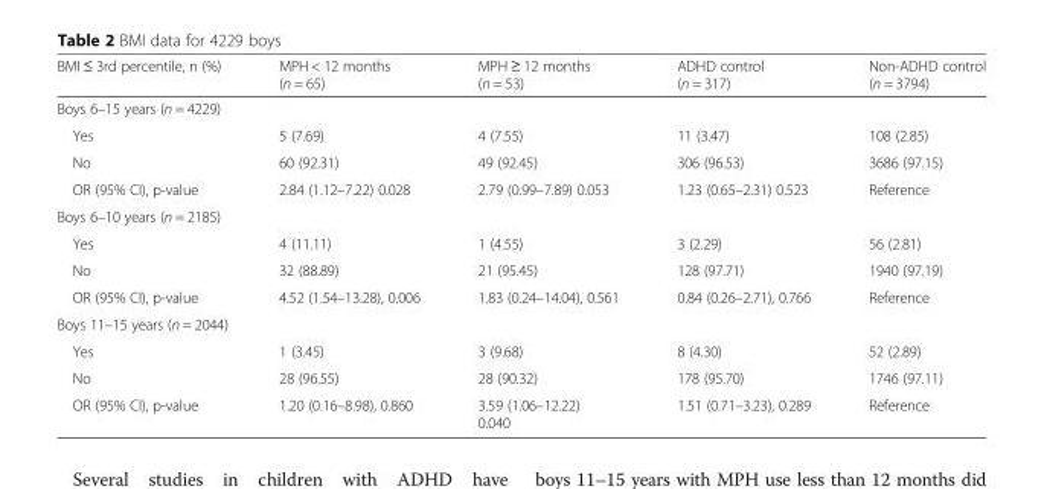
<table><thead><tr><td>BMI ≤ 3rd percentile, n (%)</td><td>MPH &lt; 12 months (n = 65)</td><td>MPH ≥ 12 months (n = 53)</td><td>ADHD control (n = 317)</td><td>Non-ADHD control (n = 3794)</td></tr></thead><tbody><tr><td colspan="5">Boys 6–15 years (n = 4229)</td></tr><tr><td>Yes</td><td>5 (7.69)</td><td>4 (7.55)</td><td>11 (3.47)</td><td>108 (2.85)</td></tr><tr><td>No</td><td>60 (92.31)</td><td>49 (92.45)</td><td>306 (96.53)</td><td>3686 (97.15)</td></tr><tr><td>OR (95% CI), p-value</td><td>2.84 (1.12–7.22) 0.028</td><td>2.79 (0.99–7.89) 0.053</td><td>1.23 (0.65–2.31) 0.523</td><td>Reference</td></tr><tr><td colspan="5">Boys 6–10 years (n = 2185)</td></tr><tr><td>Yes</td><td>4 (11.11)</td><td>1 (4.55)</td><td>3 (2.29)</td><td>56 (2.81)</td></tr><tr><td>No</td><td>32 (88.89)</td><td>21 (95.45)</td><td>128 (97.71)</td><td>1940 (97.19)</td></tr><tr><td>OR (95% CI), p-value</td><td>4.52 (1.54–13.28), 0.006</td><td>1.83 (0.24–14.04), 0.561</td><td>0.84 (0.26–2.71), 0.766</td><td>Reference</td></tr><tr><td colspan="5">Boys 11–15 years (n = 2044)</td></tr><tr><td>Yes</td><td>1 (3.45)</td><td>3 (9.68)</td><td>8 (4.30)</td><td>52 (2.89)</td></tr><tr><td>No</td><td>28 (96.55)</td><td>28 (90.32)</td><td>178 (95.70)</td><td>1746 (97.11)</td></tr><tr><td>OR (95% CI), p-value</td><td>1.20 (0.16–8.98), 0.860</td><td>3.59 (1.06–12.22) 0.040</td><td>1.51 (0.71–3.23), 0.289</td><td>Reference</td></tr></tbody></table>